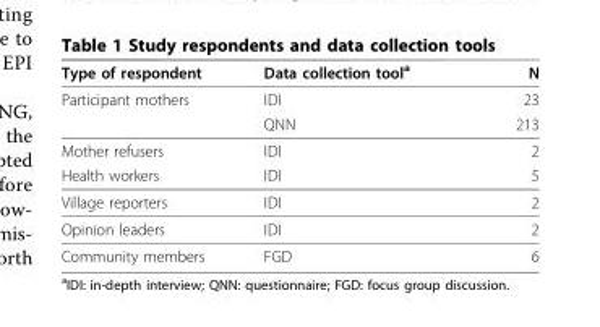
<table><thead><tr><td>Type of respondent</td><td>Data collection tool<sup>a</sup></td><td>N</td></tr></thead><tbody><tr><td rowspan="2">Participant mothers</td><td>IDI</td><td>23</td></tr><tr><td>QNN</td><td>213</td></tr><tr><td>Mother refusers</td><td>IDI</td><td>2</td></tr><tr><td>Health workers</td><td>IDI</td><td>5</td></tr><tr><td>Village reporters</td><td>IDI</td><td>2</td></tr><tr><td>Opinion leaders</td><td>IDI</td><td>2</td></tr><tr><td>Community members</td><td>FGD</td><td>6</td></tr></tbody></table>